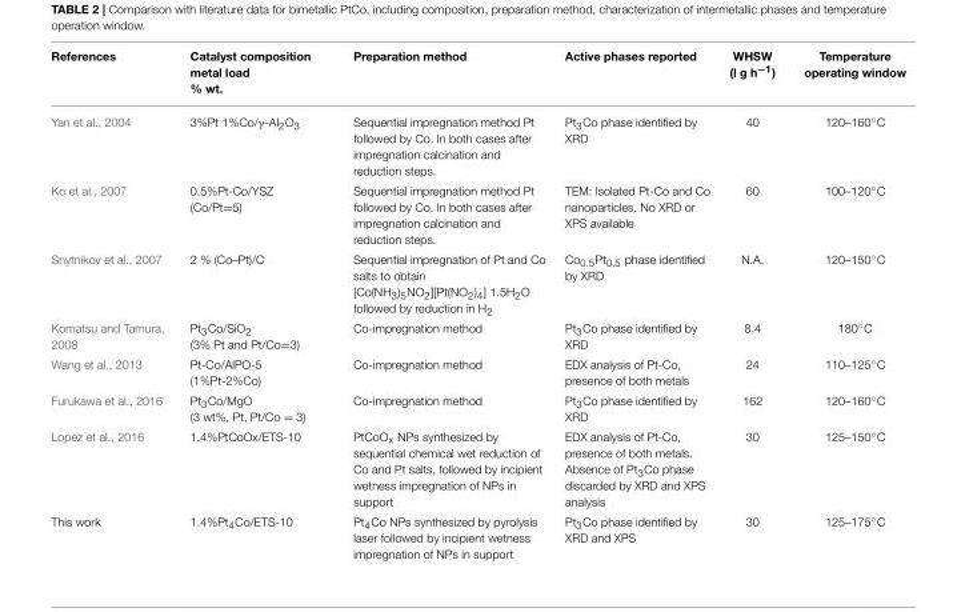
<table><thead><tr><td>References</td><td>Catalyst composition metal load % wt.</td><td>Preparation method</td><td>Active phases reported</td><td>WHSW (l g h<sup>−1</sup>)</td><td>Temperature operating window</td></tr></thead><tbody><tr><td>Yan et al., 2004</td><td>3%Pt 1%Co/γ-Al<sub>2</sub>O<sub>3</sub></td><td>Sequential impregnation method Pt followed by Co. In both cases after impregnation calcination and reduction steps.</td><td>Pt<sub>3</sub>Co phase identified by XRD</td><td>40</td><td>120–160◦C</td></tr><tr><td>Ko et al., 2007</td><td>0.5%Pt-Co/YSZ (Co/Pt=5)</td><td>Sequential impregnation method Pt followed by Co. In both cases after impregnation calcination and reduction steps.</td><td>TEM: Isolated Pt-Co and Co nanoparticles. No XRD or XPS available</td><td>60</td><td>100–120◦C</td></tr><tr><td>Snytnikov et al., 2007</td><td>2 % (Co–Pt)/C</td><td>Sequential impregnation of Pt and Co salts to obtain [Co(NH<sub>3</sub>)<sub>5</sub>NO<sub>2</sub>][Pt(NO<sub>2</sub>)<sub>4</sub>] 1.5H<sub>2</sub>O followed by reduction in H<sub>2</sub></td><td>Co<sub>0.5</sub>Pt<sub>0.5</sub> phase identified by XRD</td><td>N.A.</td><td>120–150◦C</td></tr><tr><td>Komatsu and Tamura, 2008</td><td>Pt<sub>3</sub>Co/SiO<sub>2</sub> (3% Pt and Pt/Co=3)</td><td>Co-impregnation method</td><td>Pt<sub>3</sub>Co phase identified by XRD</td><td>8.4</td><td>180◦C</td></tr><tr><td>Wang et al., 2013</td><td>Pt-Co/AlPO-5 (1%Pt-2%Co)</td><td>Co-impregnation method</td><td>EDX analysis of Pt-Co, presence of both metals</td><td>24</td><td>110–125◦C</td></tr><tr><td>Furukawa et al., 2016</td><td>Pt<sub>3</sub>Co/MgO (3 wt%, Pt, Pt/Co = 3)</td><td>Co-impregnation method</td><td>Pt<sub>3</sub>Co phase identified by XRD</td><td>162</td><td>120–160◦C</td></tr><tr><td>Lopez et al., 2016</td><td>1.4%PtCoOx/ETS-10</td><td>PtCoO<sub>x</sub> NPs synthesized by sequential chemical wet reduction of Co and Pt salts, followed by incipient wetness impregnation of NPs in support</td><td>EDX analysis of Pt-Co, presence of both metals. Absence of Pt<sub>3</sub>Co phase discarded by XRD and XPS analysis</td><td>30</td><td>125–150◦C</td></tr><tr><td>This work</td><td>1.4%Pt<sub>4</sub>Co/ETS-10</td><td>Pt<sub>4</sub>Co NPs synthesized by pyrolysis laser followed by incipient wetness impregnation of NPs in support</td><td>Pt<sub>3</sub>Co phase identified by XRD and XPS</td><td>30</td><td>125–175◦C</td></tr></tbody></table>